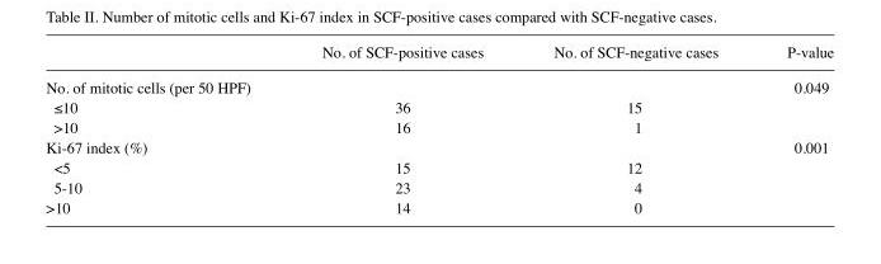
<table><thead><tr><td></td><td>No. of SCF-positive cases</td><td>No. of SCF-negative cases</td><td>P-value</td></tr></thead><tbody><tr><td>No. of mitotic cells (per 50 HPF)</td><td></td><td></td><td>0.049</td></tr><tr><td>≤10</td><td>36</td><td>15</td><td></td></tr><tr><td>&gt;10</td><td>16</td><td>1</td><td></td></tr><tr><td>Ki-67 index (%)</td><td></td><td></td><td>0.001</td></tr><tr><td>&lt;5</td><td>15</td><td>12</td><td></td></tr><tr><td>5-10</td><td>23</td><td>4</td><td></td></tr><tr><td>&gt;10</td><td>14</td><td>0</td><td></td></tr></tbody></table>